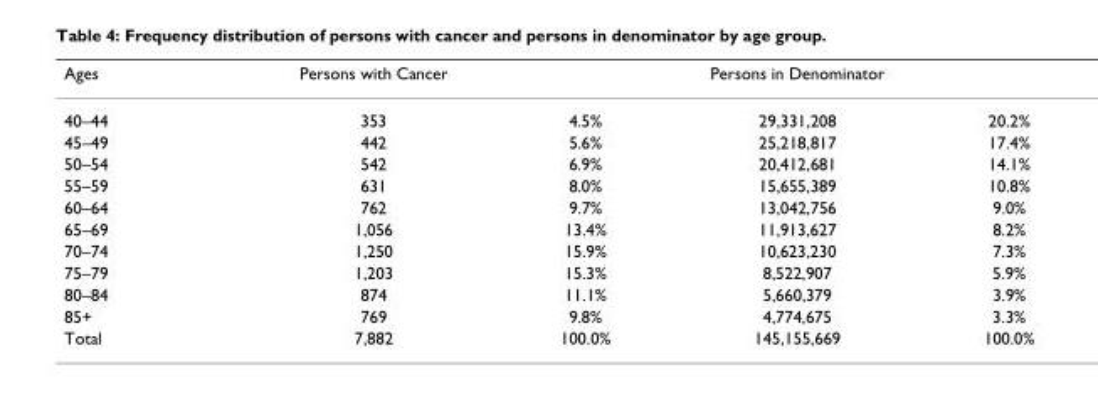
<table><thead><tr><td>Ages</td><td>Persons with Cancer</td><td></td><td>Persons in Denominator</td><td></td></tr></thead><tbody><tr><td>40–44</td><td>353</td><td>4.5%</td><td>29,331,208</td><td>20.2%</td></tr><tr><td>45–49</td><td>442</td><td>5.6%</td><td>25,218,817</td><td>17.4%</td></tr><tr><td>50–54</td><td>542</td><td>6.9%</td><td>20,412,681</td><td>14.1%</td></tr><tr><td>55–59</td><td>631</td><td>8.0%</td><td>15,655,389</td><td>10.8%</td></tr><tr><td>60–64</td><td>762</td><td>9.7%</td><td>13,042,756</td><td>9.0%</td></tr><tr><td>65–69</td><td>1,056</td><td>13.4%</td><td>11,913,627</td><td>8.2%</td></tr><tr><td>70–74</td><td>1,250</td><td>15.9%</td><td>10,623,230</td><td>7.3%</td></tr><tr><td>75–79</td><td>1,203</td><td>15.3%</td><td>8,522,907</td><td>5.9%</td></tr><tr><td>80–84</td><td>874</td><td>11.1%</td><td>5,660,379</td><td>3.9%</td></tr><tr><td>85+</td><td>769</td><td>9.8%</td><td>4,774,675</td><td>3.3%</td></tr><tr><td>Total</td><td>7,882</td><td>100.0%</td><td>145,155,669</td><td>100.0%</td></tr></tbody></table>